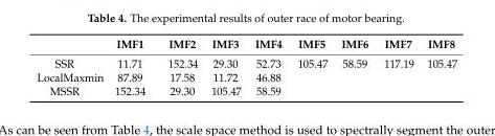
<table><thead><tr><td></td><td>IMF1</td><td>IMF2</td><td>IMF3</td><td>IMF4</td><td>IMF5</td><td>IMF6</td><td>IMF7</td><td>IMF8</td></tr></thead><tbody><tr><td>SSR</td><td>11.71</td><td>152.34</td><td>29.30</td><td>52.73</td><td>105.47</td><td>58.59</td><td>117.19</td><td>105.47</td></tr><tr><td>LocalMaxmin</td><td>87.89</td><td>17.58</td><td>11.72</td><td>46.88</td><td></td><td></td><td></td><td></td></tr><tr><td>MSSR</td><td>152.34</td><td>29.30</td><td>105.47</td><td>58.59</td><td></td><td></td><td></td><td></td></tr></tbody></table>